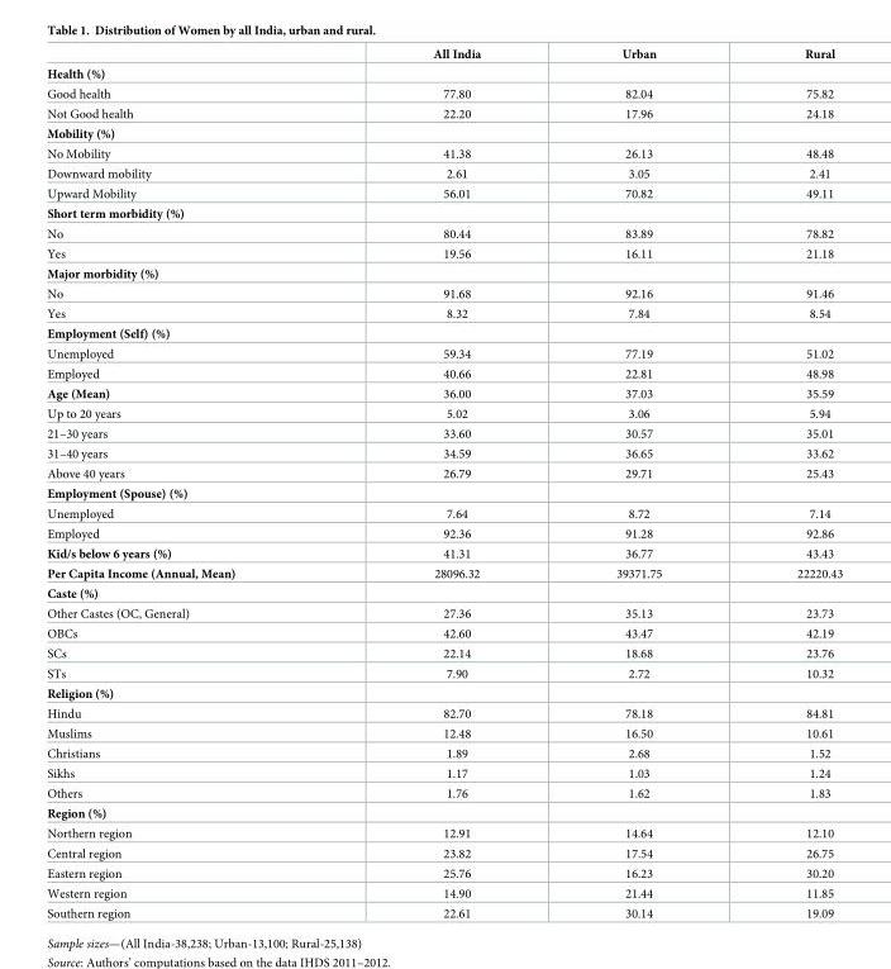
<table><thead><tr><td></td><td>All India</td><td>Urban</td><td>Rural</td></tr></thead><tbody><tr><td colspan="4">Health (%)</td></tr><tr><td>Good health</td><td>77.80</td><td>82.04</td><td>75.82</td></tr><tr><td>Not Good health</td><td>22.20</td><td>17.96</td><td>24.18</td></tr><tr><td colspan="4">Mobility (%)</td></tr><tr><td>No Mobility</td><td>41.38</td><td>26.13</td><td>48.48</td></tr><tr><td>Downward mobility</td><td>2.61</td><td>3.05</td><td>2.41</td></tr><tr><td>Upward Mobility</td><td>56.01</td><td>70.82</td><td>49.11</td></tr><tr><td colspan="4">Short term morbidity (%)</td></tr><tr><td>No</td><td>80.44</td><td>83.89</td><td>78.82</td></tr><tr><td>Yes</td><td>19.56</td><td>16.11</td><td>21.18</td></tr><tr><td colspan="4">Major morbidity (%)</td></tr><tr><td>No</td><td>91.68</td><td>92.16</td><td>91.46</td></tr><tr><td>Yes</td><td>8.32</td><td>7.84</td><td>8.54</td></tr><tr><td colspan="4">Employment (Self) (%)</td></tr><tr><td>Unemployed</td><td>59.34</td><td>77.19</td><td>51.02</td></tr><tr><td>Employed</td><td>40.66</td><td>22.81</td><td>48.98</td></tr><tr><td>Age (Mean)</td><td>36.00</td><td>37.03</td><td>35.59</td></tr><tr><td>Up to 20 years</td><td>5.02</td><td>3.06</td><td>5.94</td></tr><tr><td>21–30 years</td><td>33.60</td><td>30.57</td><td>35.01</td></tr><tr><td>31–40 years</td><td>34.59</td><td>36.65</td><td>33.62</td></tr><tr><td>Above 40 years</td><td>26.79</td><td>29.71</td><td>25.43</td></tr><tr><td colspan="4">Employment (Spouse) (%)</td></tr><tr><td>Unemployed</td><td>7.64</td><td>8.72</td><td>7.14</td></tr><tr><td>Employed</td><td>92.36</td><td>91.28</td><td>92.86</td></tr><tr><td>Kid/s below 6 years (%)</td><td>41.31</td><td>36.77</td><td>43.43</td></tr><tr><td>Per Capita Income (Annual, Mean)</td><td>28096.32</td><td>39371.75</td><td>22220.43</td></tr><tr><td colspan="4">Caste (%)</td></tr><tr><td>Other Castes (OC, General)</td><td>27.36</td><td>35.13</td><td>23.73</td></tr><tr><td>OBCs</td><td>42.60</td><td>43.47</td><td>42.19</td></tr><tr><td>SCs</td><td>22.14</td><td>18.68</td><td>23.76</td></tr><tr><td>STs</td><td>7.90</td><td>2.72</td><td>10.32</td></tr><tr><td colspan="4">Religion (%)</td></tr><tr><td>Hindu</td><td>82.70</td><td>78.18</td><td>84.81</td></tr><tr><td>Muslims</td><td>12.48</td><td>16.50</td><td>10.61</td></tr><tr><td>Christians</td><td>1.89</td><td>2.68</td><td>1.52</td></tr><tr><td>Sikhs</td><td>1.17</td><td>1.03</td><td>1.24</td></tr><tr><td>Others</td><td>1.76</td><td>1.62</td><td>1.83</td></tr><tr><td colspan="4">Region (%)</td></tr><tr><td>Northern region</td><td>12.91</td><td>14.64</td><td>12.10</td></tr><tr><td>Central region</td><td>23.82</td><td>17.54</td><td>26.75</td></tr><tr><td>Eastern region</td><td>25.76</td><td>16.23</td><td>30.20</td></tr><tr><td>Western region</td><td>14.90</td><td>21.44</td><td>11.85</td></tr><tr><td>Southern region</td><td>22.61</td><td>30.14</td><td>19.09</td></tr></tbody></table>